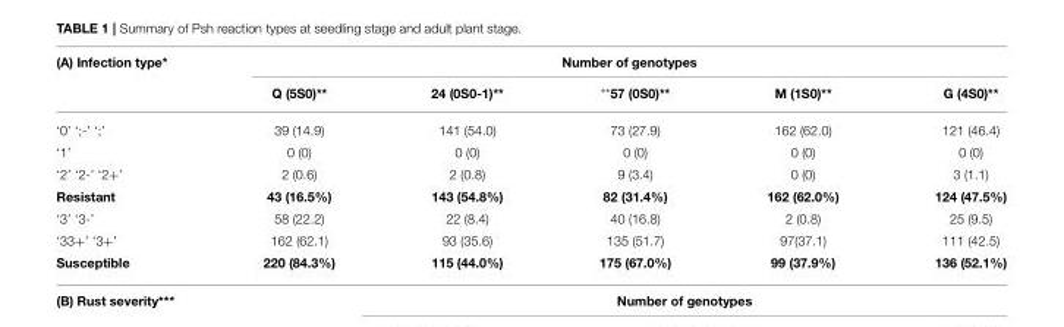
<table><thead><tr><td rowspan="2">(A) Infection type*</td><td colspan="5">Number of genotypes</td></tr><tr><td>Q (5S0)**</td><td>24 (0S0-1)**</td><td>**57 (0S0)**</td><td>M (1S0)**</td><td>G (4S0)**</td></tr></thead><tbody><tr><td>‘0’ ‘;-’ ‘;’</td><td>39 (14.9)</td><td>141 (54.0)</td><td>73 (27.9)</td><td>162 (62.0)</td><td>121 (46.4)</td></tr><tr><td>‘1’</td><td>0 (0)</td><td>0 (0)</td><td>0 (0)</td><td>0 (0)</td><td>0 (0)</td></tr><tr><td>‘2’ ‘2-’ ‘2+’</td><td>2 (0.6)</td><td>2 (0.8)</td><td>9 (3.4)</td><td>0 (0)</td><td>3 (1.1)</td></tr><tr><td>Resistant</td><td>43 (16.5%)</td><td>143 (54.8%)</td><td>82 (31.4%)</td><td>162 (62.0%)</td><td>124 (47.5%)</td></tr><tr><td>‘3’ ‘3-’</td><td>58 (22.2)</td><td>22 (8.4)</td><td>40 (16.8)</td><td>2 (0.8)</td><td>25 (9.5)</td></tr><tr><td>‘33+’ ‘3+’</td><td>162 (62.1)</td><td>93 (35.6)</td><td>135 (51.7)</td><td>97(37.1)</td><td>111 (42.5)</td></tr><tr><td>Susceptible</td><td>220 (84.3%)</td><td>115 (44.0%)</td><td>175 (67.0%)</td><td>99 (37.9%)</td><td>136 (52.1%)</td></tr></tbody></table>